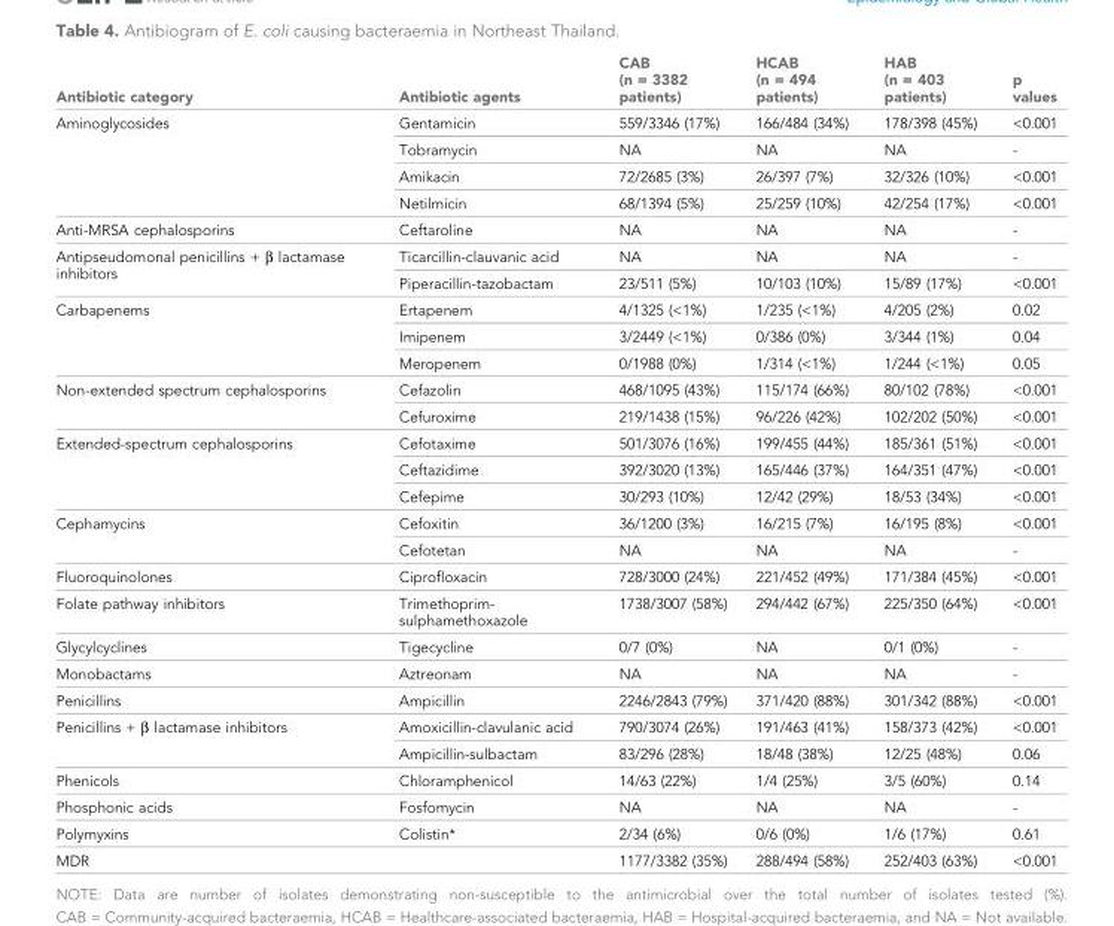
<table><thead><tr><td>Antibiotic category</td><td>Antibiotic agents</td><td>CAB (n = 3382 patients)</td><td>HCAB (n = 494 patients)</td><td>HAB (n = 403 patients)</td><td>p values</td></tr></thead><tbody><tr><td rowspan="4">Aminoglycosides</td><td>Gentamicin</td><td>559/3346 (17%)</td><td>166/484 (34%)</td><td>178/398 (45%)</td><td>&lt;0.001</td></tr><tr><td>Tobramycin</td><td>NA</td><td>NA</td><td>NA</td><td>-</td></tr><tr><td>Amikacin</td><td>72/2685 (3%)</td><td>26/397 (7%)</td><td>32/326 (10%)</td><td>&lt;0.001</td></tr><tr><td>Netilmicin</td><td>68/1394 (5%)</td><td>25/259 (10%)</td><td>42/254 (17%)</td><td>&lt;0.001</td></tr><tr><td>Anti-MRSA cephalosporins</td><td>Ceftaroline</td><td>NA</td><td>NA</td><td>NA</td><td>-</td></tr><tr><td rowspan="2">Antipseudomonal penicillins + β lactamase inhibitors</td><td>Ticarcillin-clauvanic acid</td><td>NA</td><td>NA</td><td>NA</td><td>-</td></tr><tr><td>Piperacillin-tazobactam</td><td>23/511 (5%)</td><td>10/103 (10%)</td><td>15/89 (17%)</td><td>&lt;0.001</td></tr><tr><td rowspan="3">Carbapenems</td><td>Ertapenem</td><td>4/1325 (&lt;1%)</td><td>1/235 (&lt;1%)</td><td>4/205 (2%)</td><td>0.02</td></tr><tr><td>Imipenem</td><td>3/2449 (&lt;1%)</td><td>0/386 (0%)</td><td>3/344 (1%)</td><td>0.04</td></tr><tr><td>Meropenem</td><td>0/1988 (0%)</td><td>1/314 (&lt;1%)</td><td>1/244 (&lt;1%)</td><td>0.05</td></tr><tr><td rowspan="2">Non-extended spectrum cephalosporins</td><td>Cefazolin</td><td>468/1095 (43%)</td><td>115/174 (66%)</td><td>80/102 (78%)</td><td>&lt;0.001</td></tr><tr><td>Cefuroxime</td><td>219/1438 (15%)</td><td>96/226 (42%)</td><td>102/202 (50%)</td><td>&lt;0.001</td></tr><tr><td rowspan="3">Extended-spectrum cephalosporins</td><td>Cefotaxime</td><td>501/3076 (16%)</td><td>199/455 (44%)</td><td>185/361 (51%)</td><td>&lt;0.001</td></tr><tr><td>Ceftazidime</td><td>392/3020 (13%)</td><td>165/446 (37%)</td><td>164/351 (47%)</td><td>&lt;0.001</td></tr><tr><td>Cefepime</td><td>30/293 (10%)</td><td>12/42 (29%)</td><td>18/53 (34%)</td><td>&lt;0.001</td></tr><tr><td rowspan="2">Cephamycins</td><td>Cefoxitin</td><td>36/1200 (3%)</td><td>16/215 (7%)</td><td>16/195 (8%)</td><td>&lt;0.001</td></tr><tr><td>Cefotetan</td><td>NA</td><td>NA</td><td>NA</td><td>-</td></tr><tr><td>Fluoroquinolones</td><td>Ciprofloxacin</td><td>728/3000 (24%)</td><td>221/452 (49%)</td><td>171/384 (45%)</td><td>&lt;0.001</td></tr><tr><td>Folate pathway inhibitors</td><td>Trimethoprim- sulphamethoxazole</td><td>1738/3007 (58%)</td><td>294/442 (67%)</td><td>225/350 (64%)</td><td>&lt;0.001</td></tr><tr><td>Glycylcyclines</td><td>Tigecycline</td><td>0/7 (0%)</td><td>NA</td><td>0/1 (0%)</td><td>-</td></tr><tr><td>Monobactams</td><td>Aztreonam</td><td>NA</td><td>NA</td><td>NA</td><td>-</td></tr><tr><td>Penicillins</td><td>Ampicillin</td><td>2246/2843 (79%)</td><td>371/420 (88%)</td><td>301/342 (88%)</td><td>&lt;0.001</td></tr><tr><td rowspan="2">Penicillins + β lactamase inhibitors</td><td>Amoxicillin-clavulanic acid</td><td>790/3074 (26%)</td><td>191/463 (41%)</td><td>158/373 (42%)</td><td>&lt;0.001</td></tr><tr><td>Ampicillin-sulbactam</td><td>83/296 (28%)</td><td>18/48 (38%)</td><td>12/25 (48%)</td><td>0.06</td></tr><tr><td>Phenicols</td><td>Chloramphenicol</td><td>14/63 (22%)</td><td>1/4 (25%)</td><td>3/5 (60%)</td><td>0.14</td></tr><tr><td>Phosphonic acids</td><td>Fosfomycin</td><td>NA</td><td>NA</td><td>NA</td><td>-</td></tr><tr><td>Polymyxins</td><td>Colistin*</td><td>2/34 (6%)</td><td>0/6 (0%)</td><td>1/6 (17%)</td><td>0.61</td></tr><tr><td>MDR</td><td></td><td>1177/3382 (35%)</td><td>288/494 (58%)</td><td>252/403 (63%)</td><td>&lt;0.001</td></tr></tbody></table>